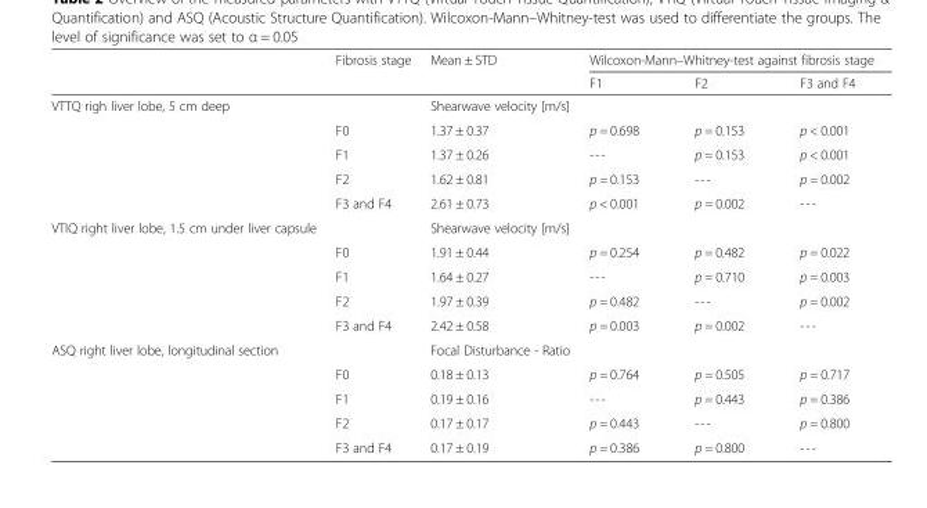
<table><thead><tr><td rowspan="2"></td><td rowspan="2">Fibrosis stage</td><td rowspan="2">Mean ± STD</td><td colspan="3">Wilcoxon-Mann–Whitney-test against fibrosis stage</td></tr><tr><td>F1</td><td>F2</td><td>F3 and F4</td></tr></thead><tbody><tr><td rowspan="5">VTTQ righ liver lobe, 5 cm deep</td><td></td><td>Shearwave velocity [m/s]</td><td></td><td></td><td></td></tr><tr><td>F0</td><td>1.37 ± 0.37</td><td>p = 0.698</td><td>p = 0.153</td><td>p &lt; 0.001</td></tr><tr><td>F1</td><td>1.37 ± 0.26</td><td>---</td><td>p = 0.153</td><td>p &lt; 0.001</td></tr><tr><td>F2</td><td>1.62 ± 0.81</td><td>p = 0.153</td><td>---</td><td>p = 0.002</td></tr><tr><td>F3 and F4</td><td>2.61 ± 0.73</td><td>p &lt; 0.001</td><td>p = 0.002</td><td>---</td></tr><tr><td rowspan="5">VTIQ right liver lobe, 1.5 cm under liver capsule</td><td></td><td>Shearwave velocity [m/s]</td><td></td><td></td><td></td></tr><tr><td>F0</td><td>1.91 ± 0.44</td><td>p = 0.254</td><td>p = 0.482</td><td>p = 0.022</td></tr><tr><td>F1</td><td>1.64 ± 0.27</td><td>---</td><td>p = 0.710</td><td>p = 0.003</td></tr><tr><td>F2</td><td>1.97 ± 0.39</td><td>p = 0.482</td><td>---</td><td>p = 0.002</td></tr><tr><td>F3 and F4</td><td>2.42 ± 0.58</td><td>p = 0.003</td><td>p = 0.002</td><td>---</td></tr><tr><td rowspan="5">ASQ right liver lobe, longitudinal section</td><td></td><td>Focal Disturbance - Ratio</td><td></td><td></td><td></td></tr><tr><td>F0</td><td>0.18 ± 0.13</td><td>p = 0.764</td><td>p = 0.505</td><td>p = 0.717</td></tr><tr><td>F1</td><td>0.19 ± 0.16</td><td>---</td><td>p = 0.443</td><td>p = 0.386</td></tr><tr><td>F2</td><td>0.17 ± 0.17</td><td>p = 0.443</td><td>---</td><td>p = 0.800</td></tr><tr><td>F3 and F4</td><td>0.17 ± 0.19</td><td>p = 0.386</td><td>p = 0.800</td><td>---</td></tr></tbody></table>